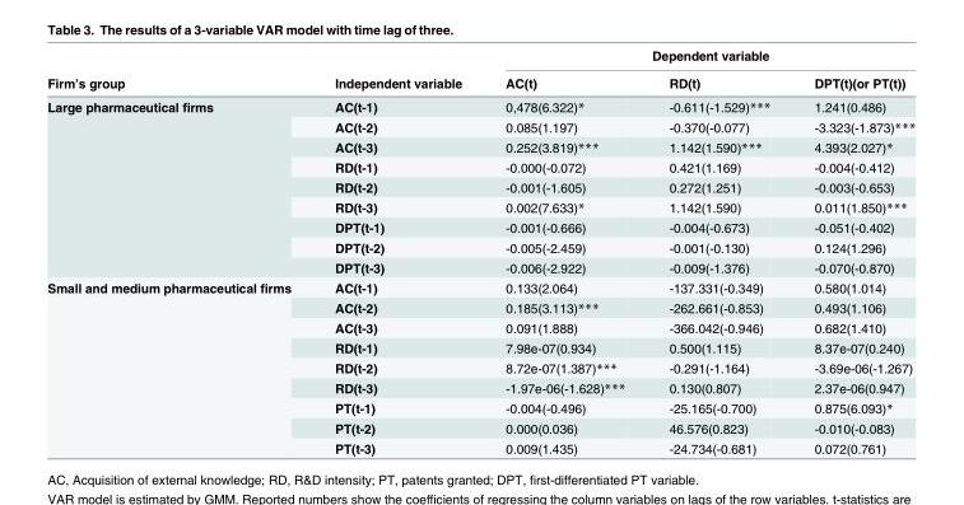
<table><thead><tr><td rowspan="2">Firm’s group</td><td rowspan="2">Independent variable</td><td colspan="3">Dependent variable</td></tr><tr><td>AC(t)</td><td>RD(t)</td><td>DPT(t)(or PT(t))</td></tr></thead><tbody><tr><td rowspan="9">Large pharmaceutical firms</td><td>AC(t-1)</td><td>0,478(6.322)*</td><td>-0.611(-1.529)***</td><td>1.241(0.486)</td></tr><tr><td>AC(t-2)</td><td>0.085(1.197)</td><td>-0.370(-0.077)</td><td>-3.323(-1.873)***</td></tr><tr><td>AC(t-3)</td><td>0.252(3.819)***</td><td>1.142(1.590)***</td><td>4.393(2.027)*</td></tr><tr><td>RD(t-1)</td><td>-0.000(-0.072)</td><td>0.421(1.169)</td><td>-0.004(-0.412)</td></tr><tr><td>RD(t-2)</td><td>-0.001(-1.605)</td><td>0.272(1.251)</td><td>-0.003(-0.653)</td></tr><tr><td>RD(t-3)</td><td>0.002(7.633)*</td><td>1.142(1.590)</td><td>0.011(1.850)***</td></tr><tr><td>DPT(t-1)</td><td>-0.001(-0.666)</td><td>-0.004(-0.673)</td><td>-0.051(-0.402)</td></tr><tr><td>DPT(t-2)</td><td>-0.005(-2.459)</td><td>-0.001(-0.130)</td><td>0.124(1.296)</td></tr><tr><td>DPT(t-3)</td><td>-0.006(-2.922)</td><td>-0.009(-1.376)</td><td>-0.070(-0.870)</td></tr><tr><td rowspan="9">Small and medium pharmaceutical firms</td><td>AC(t-1)</td><td>0.133(2.064)</td><td>-137.331(-0.349)</td><td>0.580(1.014)</td></tr><tr><td>AC(t-2)</td><td>0.185(3.113)***</td><td>-262.661(-0.853)</td><td>0.493(1.106)</td></tr><tr><td>AC(t-3)</td><td>0.091(1.888)</td><td>-366.042(-0.946)</td><td>0.682(1.410)</td></tr><tr><td>RD(t-1)</td><td>7.98e-07(0.934)</td><td>0.500(1.115)</td><td>8.37e-07(0.240)</td></tr><tr><td>RD(t-2)</td><td>8.72e-07(1.387)***</td><td>-0.291(-1.164)</td><td>-3.69e-06(-1.267)</td></tr><tr><td>RD(t-3)</td><td>-1.97e-06(-1.628)***</td><td>0.130(0.807)</td><td>2.37e-06(0.947)</td></tr><tr><td>PT(t-1)</td><td>-0.004(-0.496)</td><td>-25.165(-0.700)</td><td>0.875(6.093)*</td></tr><tr><td>PT(t-2)</td><td>0.000(0.036)</td><td>46.576(0.823)</td><td>-0.010(-0.083)</td></tr><tr><td>PT(t-3)</td><td>0.009(1.435)</td><td>-24.734(-0.681)</td><td>0.072(0.761)</td></tr></tbody></table>